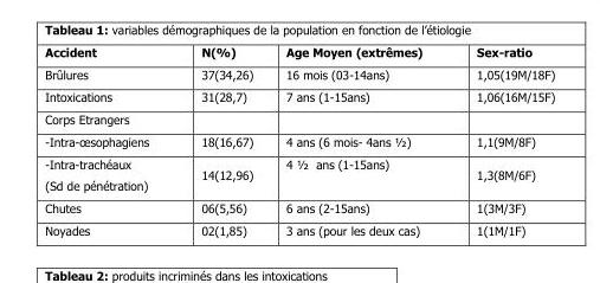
<table><thead><tr><td>Accident</td><td>N(%)</td><td>Age Moyen (extrêmes)</td><td>Sex-ratio</td></tr></thead><tbody><tr><td>Brûlures</td><td>37(34,26)</td><td>16 mois (03-14ans)</td><td>1,05(19M/18F)</td></tr><tr><td>Intoxications</td><td>31(28,7)</td><td>7 ans (1-15ans)</td><td>1,06(16M/15F)</td></tr><tr><td colspan="4">Corps Etrangers</td></tr><tr><td>-Intra-œsophagiens</td><td>18(16,67)</td><td>4 ans (6 mois- 4ans ½)</td><td>1,1(9M/8F)</td></tr><tr><td>-Intra-trachéaux (Sd de pénétration)</td><td>14(12,96)</td><td>4 ½ ans (1-15ans)</td><td>1,3(8M/6F)</td></tr><tr><td>Chutes</td><td>06(5,56)</td><td>6 ans (2-15ans)</td><td>1(3M/3F)</td></tr><tr><td>Noyades</td><td>02(1,85)</td><td>3 ans (pour les deux cas)</td><td>1(1M/1F)</td></tr></tbody></table>